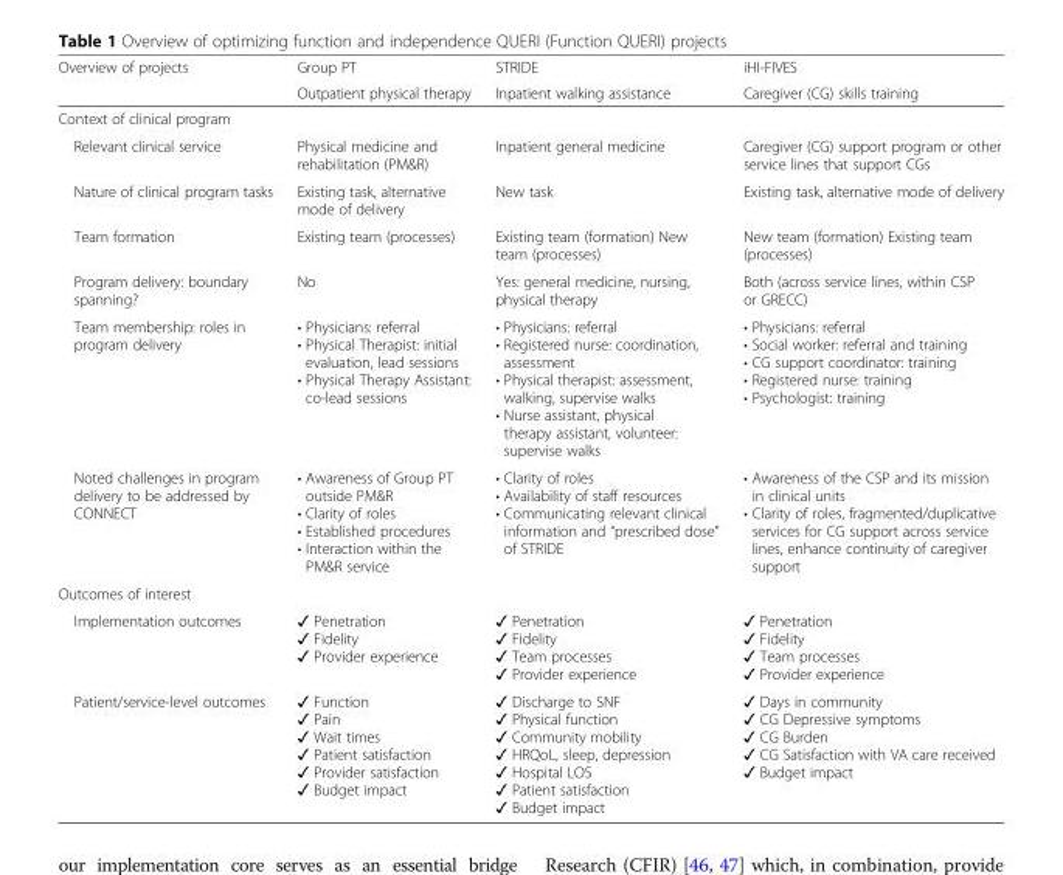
<table><thead><tr><td rowspan="2">Overview of projects</td><td rowspan="2">Group PT Outpatient physical therapy</td><td rowspan="2">STRIDE Inpatient walking assistance</td><td rowspan="2">iHI-FIVES Caregiver (CG) skills training</td></tr><tr></tr></thead><tbody><tr><td colspan="4">Context of clinical program</td></tr><tr><td>Relevant clinical service</td><td>Physical medicine and rehabilitation (PM&amp;R)</td><td>Inpatient general medicine</td><td>Caregiver (CG) support program or other service lines that support CGs</td></tr><tr><td>Nature of clinical program tasks</td><td>Existing task, alternative mode of delivery</td><td>New task</td><td>Existing task, alternative mode of delivery</td></tr><tr><td>Team formation</td><td>Existing team (processes)</td><td>Existing team (formation) New team (processes)</td><td>New team (formation) Existing team (processes)</td></tr><tr><td>Program delivery: boundary spanning?</td><td>No</td><td>Yes: general medicine, nursing, physical therapy</td><td>Both (across service lines, within CSP or GRECC)</td></tr><tr><td>Team membership: roles in program delivery</td><td>• Physicians: referral • Physical Therapist: initial evaluation, lead sessions • Physical Therapy Assistant: co-lead sessions</td><td>• Physicians: referral • Registered nurse: coordination, assessment • Physical therapist: assessment, walking, supervise walks • Nurse assistant, physical therapy assistant, volunteer: supervise walks</td><td>• Physicians: referral • Social worker: referral and training • CG support coordinator: training • Registered nurse: training • Psychologist: training</td></tr><tr><td>Noted challenges in program delivery to be addressed by CONNECT</td><td>• Awareness of Group PT outside PM&amp;R • Clarity of roles • Established procedures • Interaction within the PM&amp;R service</td><td>• Clarity of roles • Availability of staff resources • Communicating relevant clinical information and “prescribed dose” of STRIDE</td><td>• Awareness of the CSP and its mission in clinical units • Clarity of roles, fragmented/duplicative services for CG support across service lines, enhance continuity of caregiver support</td></tr><tr><td colspan="4">Outcomes of interest</td></tr><tr><td>Implementation outcomes</td><td>✓ Penetration ✓ Fidelity ✓ Provider experience</td><td>✓ Penetration ✓ Fidelity ✓ Team processes ✓ Provider experience</td><td>✓ Penetration ✓ Fidelity ✓ Team processes ✓ Provider experience</td></tr><tr><td>Patient/service-level outcomes</td><td>✓ Function ✓ Pain ✓ Wait times ✓ Patient satisfaction ✓ Provider satisfaction ✓ Budget impact</td><td>✓ Discharge to SNF ✓ Physical function ✓ Community mobility ✓ HRQoL, sleep, depression ✓ Hospital LOS ✓ Patient satisfaction ✓ Budget impact</td><td>✓ Days in community ✓ CG Depressive symptoms ✓ CG Burden ✓ CG Satisfaction with VA care received ✓ Budget impact</td></tr></tbody></table>